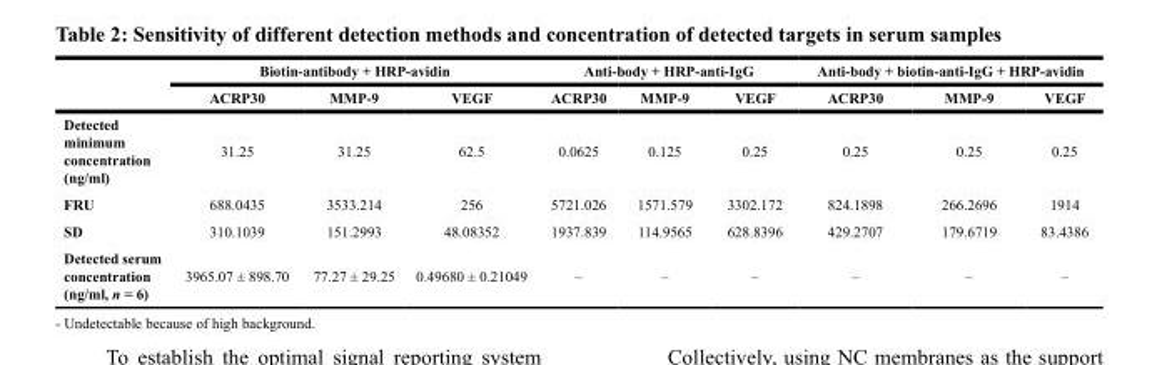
<table><thead><tr><td rowspan="2"></td><td colspan="3">Biotin-antibody + HRP-avidin</td><td colspan="3">Anti-body + HRP-anti-IgG</td><td colspan="3">Anti-body + biotin-anti-IgG + HRP-avidin</td></tr><tr><td>ACRP30</td><td>MMP-9</td><td>VEGF</td><td>ACRP30</td><td>MMP-9</td><td>VEGF</td><td>ACRP30</td><td>MMP-9</td><td>VEGF</td></tr></thead><tbody><tr><td>Detected minimum concentration (ng/ml)</td><td>31.25</td><td>31.25</td><td>62.5</td><td>0.0625</td><td>0.125</td><td>0.25</td><td>0.25</td><td>0.25</td><td>0.25</td></tr><tr><td>FRU</td><td>688.0435</td><td>3533.214</td><td>256</td><td>5721.026</td><td>1571.579</td><td>3302.172</td><td>824.1898</td><td>266.2696</td><td>1914</td></tr><tr><td>SD</td><td>310.1039</td><td>151.2993</td><td>48.08352</td><td>1937.839</td><td>114.9565</td><td>628.8396</td><td>429.2707</td><td>179.6719</td><td>83.4386</td></tr><tr><td>Detected serum concentration (ng/ml, n = 6)</td><td>3965.07 ± 898.70</td><td>77.27 ± 29.25</td><td>0.49680 ± 0.21049</td><td>–</td><td>–</td><td>–</td><td>–</td><td>–</td><td>–</td></tr></tbody></table>